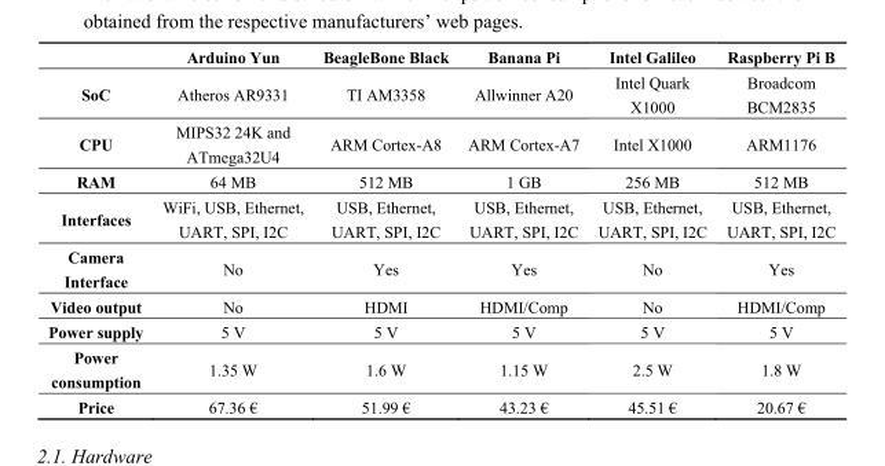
<table><thead><tr><td></td><td>Arduino Yun</td><td>BeagleBone Black</td><td>Banana Pi</td><td>Intel Galileo</td><td>Raspberry Pi B</td></tr></thead><tbody><tr><td>SoC</td><td>Atheros AR9331</td><td>TI AM3358</td><td>Allwinner A20</td><td>Intel Quark X1000</td><td>Broadcom BCM2835</td></tr><tr><td>CPU</td><td>MIPS32 24K and ATmega32U4</td><td>ARM Cortex-A8</td><td>ARM Cortex-A7</td><td>Intel X1000</td><td>ARM1176</td></tr><tr><td>RAM</td><td>64 MB</td><td>512 MB</td><td>1 GB</td><td>256 MB</td><td>512 MB</td></tr><tr><td>Interfaces</td><td>WiFi, USB, Ethernet, UART, SPI, I2C</td><td>USB, Ethernet, UART, SPI, I2C</td><td>USB, Ethernet, UART, SPI, I2C</td><td>USB, Ethernet, UART, SPI, I2C</td><td>USB, Ethernet, UART, SPI, I2C</td></tr><tr><td>Camera Interface</td><td>No</td><td>Yes</td><td>Yes</td><td>No</td><td>Yes</td></tr><tr><td>Video output</td><td>No</td><td>HDMI</td><td>HDMI/Comp</td><td>No</td><td>HDMI/Comp</td></tr><tr><td>Power supply</td><td>5 V</td><td>5 V</td><td>5 V</td><td>5 V</td><td>5 V</td></tr><tr><td>Power consumption</td><td>1.35 W</td><td>1.6 W</td><td>1.15 W</td><td>2.5 W</td><td>1.8 W</td></tr><tr><td>Price</td><td>67.36 €</td><td>51.99 €</td><td>43.23 €</td><td>45.51 €</td><td>20.67 €</td></tr></tbody></table>